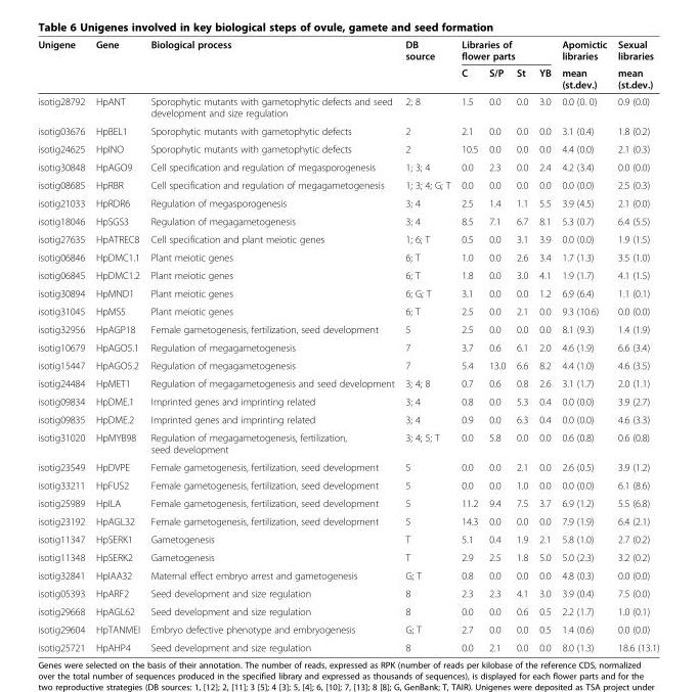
<table><thead><tr><td rowspan="2">Unigene</td><td rowspan="2">Gene</td><td rowspan="2">Biological process</td><td rowspan="2">DB source</td><td colspan="4">Libraries of flower parts</td><td rowspan="2">Apomictic libraries mean (st.dev.)</td><td rowspan="2">Sexual libraries mean (st.dev.)</td></tr><tr><td>C</td><td>S/P</td><td>St</td><td>YB</td></tr></thead><tbody><tr><td>isotig28792</td><td>HpANT</td><td>Sporophytic mutants with gametophytic defects and seed development and size regulation</td><td>2; 8</td><td>1.5</td><td>0.0</td><td>0.0</td><td>3.0</td><td>0.0 (0. 0)</td><td>0.9 (0.0)</td></tr><tr><td>isotig03676</td><td>HpBEL1</td><td>Sporophytic mutants with gametophytic defects</td><td>2</td><td>2.1</td><td>0.0</td><td>0.0</td><td>0.0</td><td>3.1 (0.4)</td><td>1.8 (0.2)</td></tr><tr><td>isotig24625</td><td>HpINO</td><td>Sporophytic mutants with gametophytic defects</td><td>2</td><td>10.5</td><td>0.0</td><td>0.0</td><td>0.0</td><td>4.4 (0.0)</td><td>2.1 (0.3)</td></tr><tr><td>isotig30848</td><td>HpAGO9</td><td>Cell specification and regulation of megasporogenesis</td><td>1; 3; 4</td><td>0.0</td><td>2.3</td><td>0.0</td><td>2.4</td><td>4.2 (3.4)</td><td>0.0 (0.0)</td></tr><tr><td>isotig08685</td><td>HpRBR</td><td>Cell specification and regulation of megagametogenesis</td><td>1; 3; 4; G; T</td><td>0.0</td><td>0.0</td><td>0.0</td><td>0.0</td><td>0.0 (0.0)</td><td>2.5 (0.3)</td></tr><tr><td>isotig21033</td><td>HpRDR6</td><td>Regulation of megasporogenesis</td><td>3; 4</td><td>2.5</td><td>1.4</td><td>1.1</td><td>5.5</td><td>3.9 (4.5)</td><td>2.1 (0.0)</td></tr><tr><td>isotig18046</td><td>HpSGS3</td><td>Regulation of megagametogenesis</td><td>3; 4</td><td>8.5</td><td>7.1</td><td>6.7</td><td>8.1</td><td>5.3 (0.7)</td><td>6.4 (5.5)</td></tr><tr><td>isotig27635</td><td>HpATREC8</td><td>Cell specification and plant meiotic genes</td><td>1; 6; T</td><td>0.5</td><td>0.0</td><td>3.1</td><td>3.9</td><td>0.0 (0.0)</td><td>1.9 (1.5)</td></tr><tr><td>isotig06846</td><td>HpDMC1.1</td><td>Plant meiotic genes</td><td>6; T</td><td>1.0</td><td>0.0</td><td>2.6</td><td>3.4</td><td>1.7 (1.3)</td><td>3.5 (1.0)</td></tr><tr><td>isotig06845</td><td>HpDMC1.2</td><td>Plant meiotic genes</td><td>6; T</td><td>1.8</td><td>0.0</td><td>3.0</td><td>4.1</td><td>1.9 (1.7)</td><td>4.1 (1.5)</td></tr><tr><td>isotig30894</td><td>HpMND1</td><td>Plant meiotic genes</td><td>6; G; T</td><td>3.1</td><td>0.0</td><td>0.0</td><td>1.2</td><td>6.9 (6.4)</td><td>1.1 (0.1)</td></tr><tr><td>isotig31045</td><td>HpMS5</td><td>Plant meiotic genes</td><td>6; T</td><td>2.5</td><td>0.0</td><td>2.1</td><td>0.0</td><td>9.3 (10.6)</td><td>0.0 (0.0)</td></tr><tr><td>isotig32956</td><td>HpAGP18</td><td>Female gametogenesis, fertilization, seed development</td><td>5</td><td>2.5</td><td>0.0</td><td>0.0</td><td>0.0</td><td>8.1 (9.3)</td><td>1.4 (1.9)</td></tr><tr><td>isotig10679</td><td>HpAGO5.1</td><td>Regulation of megagametogenesis</td><td>7</td><td>3.7</td><td>0.6</td><td>6.1</td><td>2.0</td><td>4.6 (1.9)</td><td>6.6 (3.4)</td></tr><tr><td>isotig15447</td><td>HpAGO5.2</td><td>Regulation of megagametogenesis</td><td>7</td><td>5.4</td><td>13.0</td><td>6.6</td><td>8.2</td><td>4.4 (1.0)</td><td>4.6 (3.5)</td></tr><tr><td>isotig24484</td><td>HpMET1</td><td>Regulation of megagametogenesis and seed development</td><td>3; 4; 8</td><td>0.7</td><td>0.6</td><td>0.8</td><td>2.6</td><td>3.1 (1.7)</td><td>2.0 (1.1)</td></tr><tr><td>isotig09834</td><td>HpDME.1</td><td>Imprinted genes and imprinting related</td><td>3; 4</td><td>0.8</td><td>0.0</td><td>5.3</td><td>0.4</td><td>0.0 (0.0)</td><td>3.9 (2.7)</td></tr><tr><td>isotig09835</td><td>HpDME.2</td><td>Imprinted genes and imprinting related</td><td>3; 4</td><td>0.9</td><td>0.0</td><td>6.3</td><td>0.4</td><td>0.0 (0.0)</td><td>4.6 (3.3)</td></tr><tr><td>isotig31020</td><td>HpMYB98</td><td>Regulation of megagametogenesis, fertilization, seed development</td><td>3; 4; 5; T</td><td>0.0</td><td>5.8</td><td>0.0</td><td>0.0</td><td>0.6 (0.8)</td><td>0.6 (0.8)</td></tr><tr><td>isotig23549</td><td>HpDVPE</td><td>Female gametogenesis, fertilization, seed development</td><td>5</td><td>0.0</td><td>0.0</td><td>2.1</td><td>0.0</td><td>2.6 (0.5)</td><td>3.9 (1.2)</td></tr><tr><td>isotig33211</td><td>HpFUS2</td><td>Female gametogenesis, fertilization, seed development</td><td>5</td><td>0.0</td><td>0.0</td><td>1.0</td><td>0.0</td><td>0.0 (0.0)</td><td>6.1 (8.6)</td></tr><tr><td>isotig25989</td><td>HpILA</td><td>Female gametogenesis, fertilization, seed development</td><td>5</td><td>11.2</td><td>9.4</td><td>7.5</td><td>3.7</td><td>6.9 (1.2)</td><td>5.5 (6.8)</td></tr><tr><td>isotig23192</td><td>HpAGL32</td><td>Female gametogenesis, fertilization, seed development</td><td>5</td><td>14.3</td><td>0.0</td><td>0.0</td><td>0.0</td><td>7.9 (1.9)</td><td>6.4 (2.1)</td></tr><tr><td>isotig11347</td><td>HpSERK1</td><td>Gametogenesis</td><td>T</td><td>5.1</td><td>0.4</td><td>1.9</td><td>2.1</td><td>5.8 (1.0)</td><td>2.7 (0.2)</td></tr><tr><td>isotig11348</td><td>HpSERK2</td><td>Gametogenesis</td><td>T</td><td>2.9</td><td>2.5</td><td>1.8</td><td>5.0</td><td>5.0 (2.3)</td><td>3.2 (0.2)</td></tr><tr><td>isotig32841</td><td>HpIAA32</td><td>Maternal effect embryo arrest and gametogenesis</td><td>G; T</td><td>0.8</td><td>0.0</td><td>0.0</td><td>0.0</td><td>4.8 (0.3)</td><td>0.0 (0.0)</td></tr><tr><td>isotig05393</td><td>HpARF2</td><td>Seed development and size regulation</td><td>8</td><td>2.3</td><td>2.3</td><td>4.1</td><td>3.0</td><td>3.9 (0.4)</td><td>7.5 (0.0)</td></tr><tr><td>isotig29668</td><td>HpAGL62</td><td>Seed development and size regulation</td><td>8</td><td>0.0</td><td>0.0</td><td>0.6</td><td>0.5</td><td>2.2 (1.7)</td><td>1.0 (0.1)</td></tr><tr><td>isotig29604</td><td>HpTANMEI</td><td>Embryo defective phenotype and embryogenesis</td><td>G; T</td><td>2.7</td><td>0.0</td><td>0.0</td><td>0.5</td><td>1.4 (0.6)</td><td>0.0 (0.0)</td></tr><tr><td>isotig25721</td><td>HpAHP4</td><td>Seed development and size regulation</td><td>8</td><td>0.0</td><td>2.1</td><td>0.0</td><td>0.0</td><td>8.0 (1.3)</td><td>18.6 (13.1)</td></tr></tbody></table>